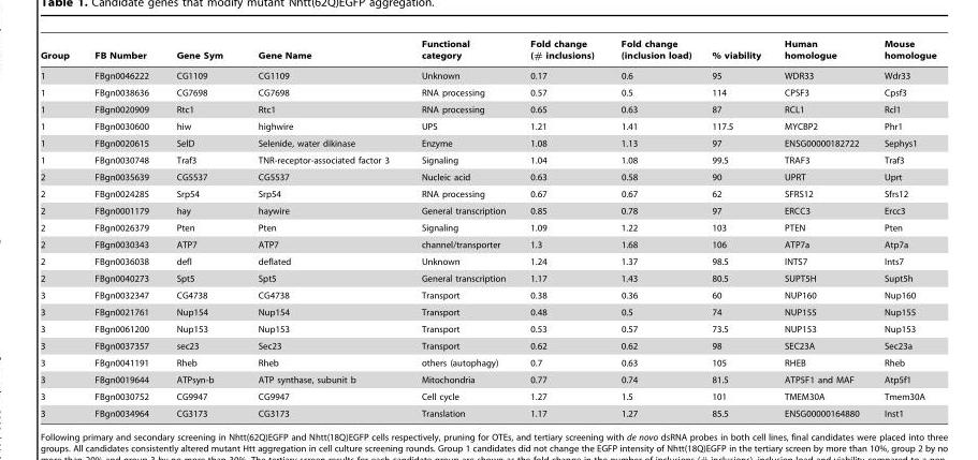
<table><thead><tr><td>Group</td><td>FB Number</td><td>Gene Sym</td><td>Gene Name</td><td>Functional category</td><td>Fold change (# inclusions)</td><td>Fold change (inclusion load)</td><td>% viability</td><td>Human homologue</td><td>Mouse homologue</td></tr></thead><tbody><tr><td>1</td><td>FBgn0046222</td><td>CG1109</td><td>CG1109</td><td>Unknown</td><td>0.17</td><td>0.6</td><td>95</td><td>WDR33</td><td>Wdr33</td></tr><tr><td>1</td><td>FBgn0038636</td><td>CG7698</td><td>CG7698</td><td>RNA processing</td><td>0.57</td><td>0.5</td><td>114</td><td>CPSF3</td><td>Cpsf3</td></tr><tr><td>1</td><td>FBgn0020909</td><td>Rtc1</td><td>Rtc1</td><td>RNA processing</td><td>0.65</td><td>0.63</td><td>87</td><td>RCL1</td><td>Rcl1</td></tr><tr><td>1</td><td>FBgn0030600</td><td>hiw</td><td>highwire</td><td>UPS</td><td>1.21</td><td>1.41</td><td>117.5</td><td>MYCBP2</td><td>Phr1</td></tr><tr><td>1</td><td>FBgn0020615</td><td>SelD</td><td>Selenide, water dikinase</td><td>Enzyme</td><td>1.08</td><td>1.13</td><td>97</td><td>ENSG00000182722</td><td>Sephys1</td></tr><tr><td>1</td><td>FBgn0030748</td><td>Traf3</td><td>TNR-receptor-associated factor 3</td><td>Signaling</td><td>1.04</td><td>1.08</td><td>99.5</td><td>TRAF3</td><td>Traf3</td></tr><tr><td>2</td><td>FBgn0035639</td><td>CG5537</td><td>CG5537</td><td>Nucleic acid</td><td>0.63</td><td>0.58</td><td>90</td><td>UPRT</td><td>Uprt</td></tr><tr><td>2</td><td>FBgn0024285</td><td>Srp54</td><td>Srp54</td><td>RNA processing</td><td>0.67</td><td>0.67</td><td>62</td><td>SFRS12</td><td>Sfrs12</td></tr><tr><td>2</td><td>FBgn0001179</td><td>hay</td><td>haywire</td><td>General transcription</td><td>0.85</td><td>0.78</td><td>97</td><td>ERCC3</td><td>Ercc3</td></tr><tr><td>2</td><td>FBgn0026379</td><td>Pten</td><td>Pten</td><td>Signaling</td><td>1.09</td><td>1.22</td><td>103</td><td>PTEN</td><td>Pten</td></tr><tr><td>2</td><td>FBgn0030343</td><td>ATP7</td><td>ATP7</td><td>channel/transporter</td><td>1.3</td><td>1.68</td><td>106</td><td>ATP7a</td><td>Atp7a</td></tr><tr><td>2</td><td>FBgn0036038</td><td>defl</td><td>deflated</td><td>Unknown</td><td>1.24</td><td>1.37</td><td>98.5</td><td>INTS7</td><td>Ints7</td></tr><tr><td>2</td><td>FBgn0040273</td><td>Spt5</td><td>Spt5</td><td>General transcription</td><td>1.17</td><td>1.43</td><td>80.5</td><td>SUPT5H</td><td>Supt5h</td></tr><tr><td>3</td><td>FBgn0032347</td><td>CG4738</td><td>CG4738</td><td>Transport</td><td>0.38</td><td>0.36</td><td>60</td><td>NUP160</td><td>Nup160</td></tr><tr><td>3</td><td>FBgn0021761</td><td>Nup154</td><td>Nup154</td><td>Transport</td><td>0.48</td><td>0.5</td><td>74</td><td>NUP155</td><td>Nup155</td></tr><tr><td>3</td><td>FBgn0061200</td><td>Nup153</td><td>Nup153</td><td>Transport</td><td>0.53</td><td>0.57</td><td>73.5</td><td>NUP153</td><td>Nup153</td></tr><tr><td>3</td><td>FBgn0037357</td><td>sec23</td><td>Sec23</td><td>Transport</td><td>0.62</td><td>0.62</td><td>98</td><td>SEC23A</td><td>Sec23a</td></tr><tr><td>3</td><td>FBgn0041191</td><td>Rheb</td><td>Rheb</td><td>others (autophagy)</td><td>0.7</td><td>0.63</td><td>105</td><td>RHEB</td><td>Rheb</td></tr><tr><td>3</td><td>FBgn0019644</td><td>ATPsyn-b</td><td>ATP synthase, subunit b</td><td>Mitochondria</td><td>0.77</td><td>0.74</td><td>81.5</td><td>ATP5F1 and MAF</td><td>Atp5f1</td></tr><tr><td>3</td><td>FBgn0030752</td><td>CG9947</td><td>CG9947</td><td>Cell cycle</td><td>1.27</td><td>1.5</td><td>101</td><td>TMEM30A</td><td>Tmem30A</td></tr><tr><td>3</td><td>FBgn0034964</td><td>CG3173</td><td>CG3173</td><td>Translation</td><td>1.17</td><td>1.27</td><td>85.5</td><td>ENSG00000164880</td><td>Inst1</td></tr></tbody></table>